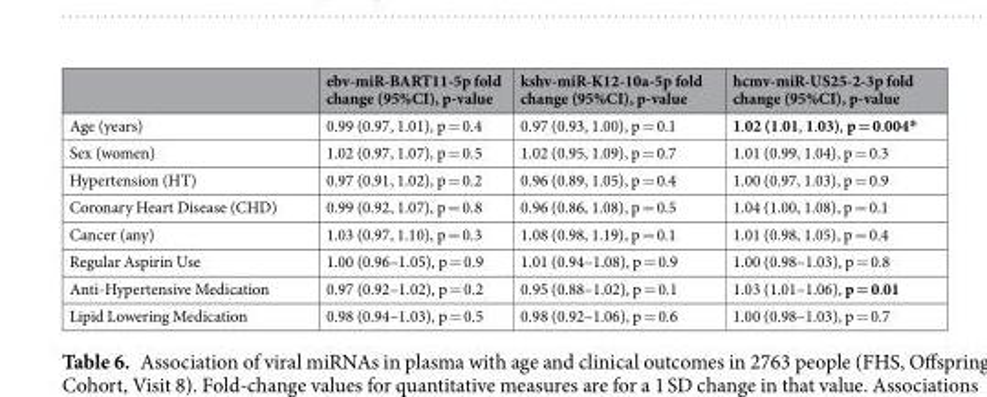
<table><thead><tr><td></td><td>ebv-miR-BART11-5p fold change (95%CI), p-value</td><td>kshv-miR-K12-10a-5p fold change (95%CI), p-value</td><td>hcmv-miR-US25-2-3p fold change (95%CI), p-value</td></tr></thead><tbody><tr><td>Age (years)</td><td>0.99 (0.97, 1.01), p = 0.4</td><td>0.97 (0.93, 1.00), p = 0.1</td><td>1.02 (1.01, 1.03), p = 0.004*</td></tr><tr><td>Sex (women)</td><td>1.02 (0.97, 1.07), p = 0.5</td><td>1.02 (0.95, 1.09), p = 0.7</td><td>1.01 (0.99, 1.04), p = 0.3</td></tr><tr><td>Hypertension (HT)</td><td>0.97 (0.91, 1.02), p = 0.2</td><td>0.96 (0.89, 1.05), p = 0.4</td><td>1.00 (0.97, 1.03), p = 0.9</td></tr><tr><td>Coronary Heart Disease (CHD)</td><td>0.99 (0.92, 1.07), p = 0.8</td><td>0.96 (0.86, 1.08), p = 0.5</td><td>1.04 (1.00, 1.08), p = 0.1</td></tr><tr><td>Cancer (any)</td><td>1.03 (0.97, 1.10), p = 0.3</td><td>1.08 (0.98, 1.19), p = 0.1</td><td>1.01 (0.98, 1.05), p = 0.4</td></tr><tr><td>Regular Aspirin Use</td><td>1.00 (0.96–1.05), p = 0.9</td><td>1.01 (0.94–1.08), p = 0.9</td><td>1.00 (0.98–1.03), p = 0.8</td></tr><tr><td>Anti-Hypertensive Medication</td><td>0.97 (0.92–1.02), p = 0.2</td><td>0.95 (0.88–1.02), p = 0.1</td><td>1.03 (1.01–1.06), p = 0.01</td></tr><tr><td>Lipid Lowering Medication</td><td>0.98 (0.94–1.03), p = 0.5</td><td>0.98 (0.92–1.06), p = 0.6</td><td>1.00 (0.98–1.03), p = 0.7</td></tr></tbody></table>